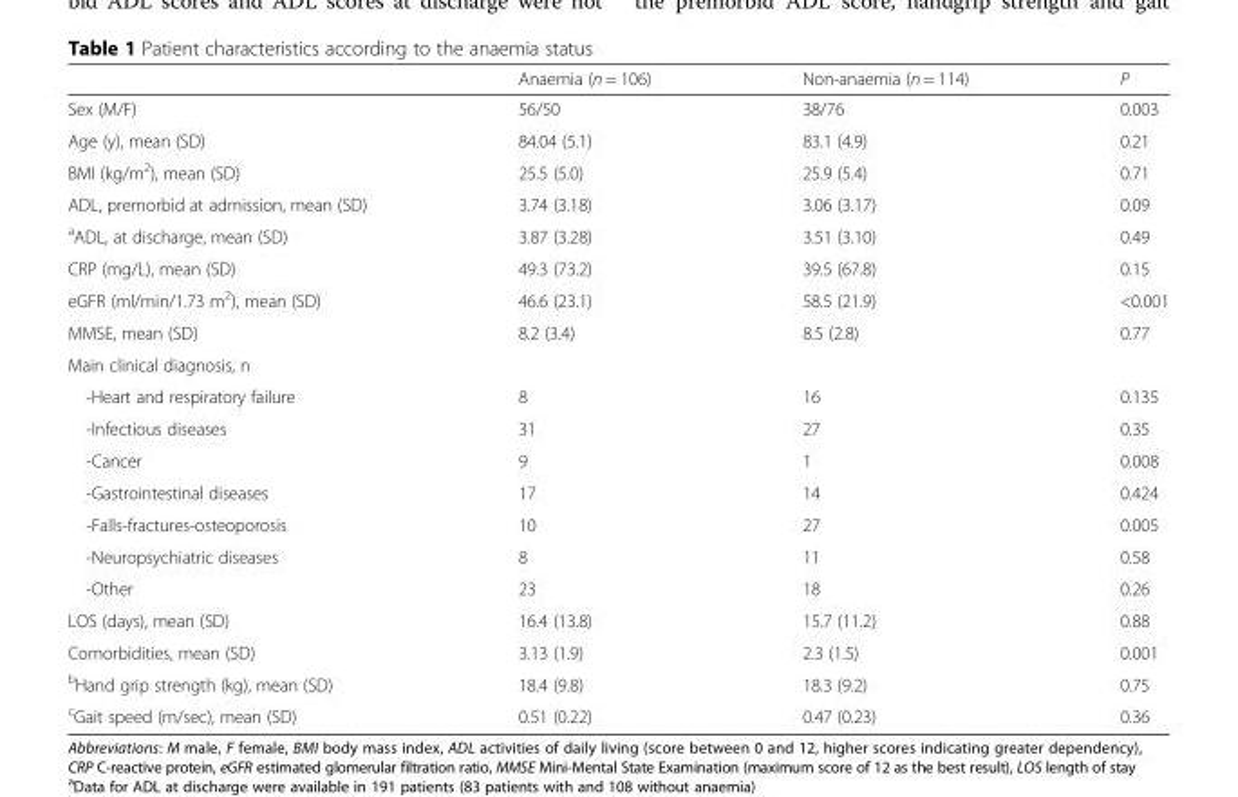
<table><thead><tr><td></td><td>Anaemia (n = 106)</td><td>Non-anaemia (n = 114)</td><td>P</td></tr></thead><tbody><tr><td>Sex (M/F)</td><td>56/50</td><td>38/76</td><td>0.003</td></tr><tr><td>Age (y), mean (SD)</td><td>84.04 (5.1)</td><td>83.1 (4.9)</td><td>0.21</td></tr><tr><td>BMI (kg/m<sup>2</sup>), mean (SD)</td><td>25.5 (5.0)</td><td>25.9 (5.4)</td><td>0.71</td></tr><tr><td>ADL, premorbid at admission, mean (SD)</td><td>3.74 (3.18)</td><td>3.06 (3.17)</td><td>0.09</td></tr><tr><td><sup>a</sup>ADL, at discharge, mean (SD)</td><td>3.87 (3.28)</td><td>3.51 (3.10)</td><td>0.49</td></tr><tr><td>CRP (mg/L), mean (SD)</td><td>49.3 (73.2)</td><td>39.5 (67.8)</td><td>0.15</td></tr><tr><td>eGFR (ml/min/1.73 m<sup>2</sup>), mean (SD)</td><td>46.6 (23.1)</td><td>58.5 (21.9)</td><td>&lt;0.001</td></tr><tr><td>MMSE, mean (SD)</td><td>8.2 (3.4)</td><td>8.5 (2.8)</td><td>0.77</td></tr><tr><td colspan="4">Main clinical diagnosis, n</td></tr><tr><td>-Heart and respiratory failure</td><td>8</td><td>16</td><td>0.135</td></tr><tr><td>-Infectious diseases</td><td>31</td><td>27</td><td>0.35</td></tr><tr><td>-Cancer</td><td>9</td><td>1</td><td>0.008</td></tr><tr><td>-Gastrointestinal diseases</td><td>17</td><td>14</td><td>0.424</td></tr><tr><td>-Falls-fractures-osteoporosis</td><td>10</td><td>27</td><td>0.005</td></tr><tr><td>-Neuropsychiatric diseases</td><td>8</td><td>11</td><td>0.58</td></tr><tr><td>-Other</td><td>23</td><td>18</td><td>0.26</td></tr><tr><td>LOS (days), mean (SD)</td><td>16.4 (13.8)</td><td>15.7 (11.2)</td><td>0.88</td></tr><tr><td>Comorbidities, mean (SD)</td><td>3.13 (1.9)</td><td>2.3 (1.5)</td><td>0.001</td></tr><tr><td><sup>b</sup>Hand grip strength (kg), mean (SD)</td><td>18.4 (9.8)</td><td>18.3 (9.2)</td><td>0.75</td></tr><tr><td><sup>c</sup>Gait speed (m/sec), mean (SD)</td><td>0.51 (0.22)</td><td>0.47 (0.23)</td><td>0.36</td></tr></tbody></table>